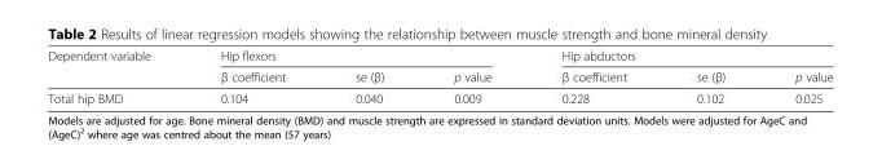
<table><thead><tr><td rowspan="2">Dependent variable</td><td colspan="3">Hip flexors</td><td colspan="3">Hip abductors</td></tr><tr><td>β coefficient</td><td>se (β)</td><td>p value</td><td>β coefficient</td><td>se (β)</td><td>p value</td></tr></thead><tbody><tr><td>Total hip BMD</td><td>0.104</td><td>0.040</td><td>0.009</td><td>0.228</td><td>0.102</td><td>0.025</td></tr></tbody></table>